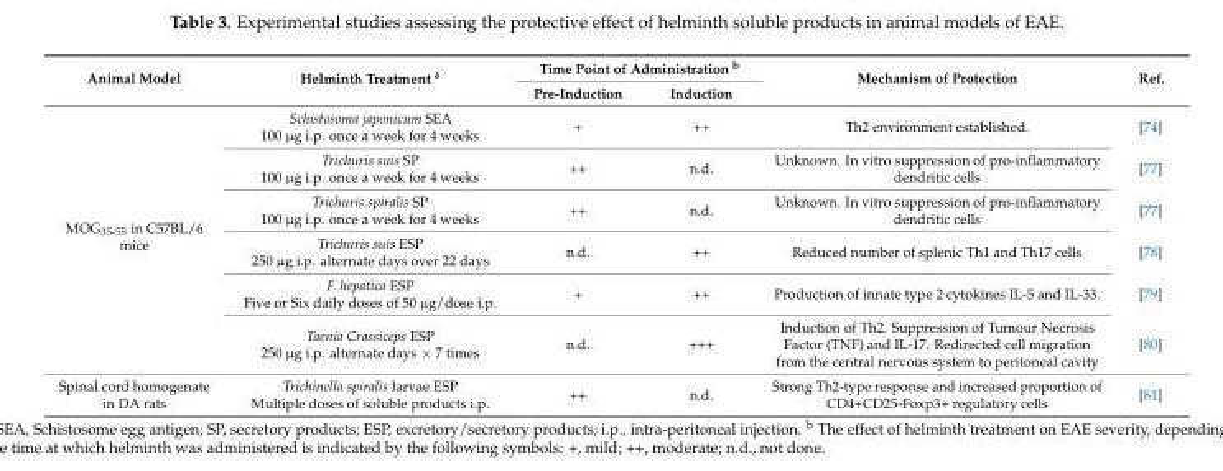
<table><thead><tr><td rowspan="2">Animal Model</td><td rowspan="2">Helminth Treatment <sup>a</sup></td><td colspan="2">Time Point of Administration <sup>b</sup></td><td rowspan="2">Mechanism of Protection</td><td rowspan="2">Ref.</td></tr><tr><td>Pre-Induction</td><td>Induction</td></tr></thead><tbody><tr><td rowspan="6">MOG<sub>35-55</sub> in C57BL/6 mice</td><td>Schistosoma japonicum SEA 100 µg i.p. once a week for 4 weeks</td><td>+</td><td>++</td><td>Th2 environment established.</td><td>[74]</td></tr><tr><td>Trichuris suis SP 100 µg i.p. once a week for 4 weeks</td><td>++</td><td>n.d.</td><td>Unknown. In vitro suppression of pro-inflammatory dendritic cells</td><td>[77]</td></tr><tr><td>Trichuris spiralis SP 100 µg i.p. once a week for 4 weeks</td><td>++</td><td>n.d.</td><td>Unknown. In vitro suppression of pro-inflammatory dendritic cells</td><td>[77]</td></tr><tr><td>Trichuris suis ESP 250 µg i.p. alternate days over 22 days</td><td>n.d.</td><td>++</td><td>Reduced number of splenic Th1 and Th17 cells</td><td>[78]</td></tr><tr><td>F. hepatica ESP Five or Six daily doses of 50 µg/dose i.p.</td><td>+</td><td>++</td><td>Production of innate type 2 cytokines IL-5 and IL-33.</td><td>[79]</td></tr><tr><td>Taenia Crassiceps ESP 250 µg i.p. alternate days × 7 times</td><td>n.d.</td><td>+++</td><td>Induction of Th2. Suppression of Tumour Necrosis Factor (TNF) and IL-17. Redirected cell migration from the central nervous system to peritoneal cavity</td><td>[80]</td></tr><tr><td>Spinal cord homogenate in DA rats</td><td>Trichinella spiralis larvae ESP Multiple doses of soluble products i.p.</td><td>++</td><td>n.d.</td><td>Strong Th2-type response and increased proportion of CD4+CD25-Foxp3+ regulatory cells</td><td>[81]</td></tr></tbody></table>